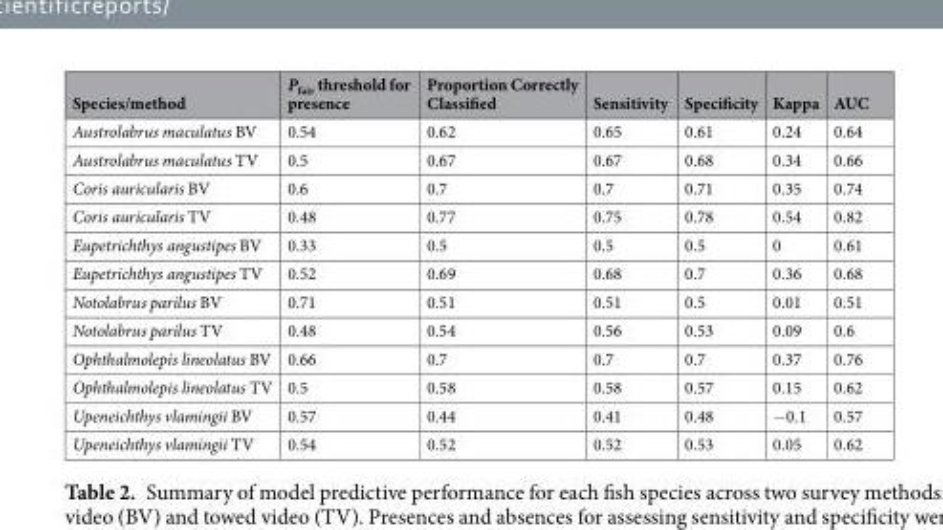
<table><thead><tr><td>Species/method</td><td>P<sub>fair</sub> threshold for presence</td><td>Proportion Correctly Classified</td><td>Sensitivity</td><td>Specificity</td><td>Kappa</td><td>AUC</td></tr></thead><tbody><tr><td>Austrolabrus maculatus BV</td><td>0.54</td><td>0.62</td><td>0.65</td><td>0.61</td><td>0.24</td><td>0.64</td></tr><tr><td>Austrolabrus maculatus TV</td><td>0.5</td><td>0.67</td><td>0.67</td><td>0.68</td><td>0.34</td><td>0.66</td></tr><tr><td>Coris auricularis BV</td><td>0.6</td><td>0.7</td><td>0.7</td><td>0.71</td><td>0.35</td><td>0.74</td></tr><tr><td>Coris auricularis TV</td><td>0.48</td><td>0.77</td><td>0.75</td><td>0.78</td><td>0.54</td><td>0.82</td></tr><tr><td>Eupetrichthys angustipes BV</td><td>0.33</td><td>0.5</td><td>0.5</td><td>0.5</td><td>0</td><td>0.61</td></tr><tr><td>Eupetrichthys angustipes TV</td><td>0.52</td><td>0.69</td><td>0.68</td><td>0.7</td><td>0.36</td><td>0.68</td></tr><tr><td>Notolabrus parilus BV</td><td>0.71</td><td>0.51</td><td>0.51</td><td>0.5</td><td>0.01</td><td>0.51</td></tr><tr><td>Notolabrus parilus TV</td><td>0.48</td><td>0.54</td><td>0.56</td><td>0.53</td><td>0.09</td><td>0.6</td></tr><tr><td>Ophthalmolepis lineolatus BV</td><td>0.66</td><td>0.7</td><td>0.7</td><td>0.7</td><td>0.37</td><td>0.76</td></tr><tr><td>Ophthalmolepis lineolatus TV</td><td>0.5</td><td>0.58</td><td>0.58</td><td>0.57</td><td>0.15</td><td>0.62</td></tr><tr><td>Upeneichthys vlamingii BV</td><td>0.57</td><td>0.44</td><td>0.41</td><td>0.48</td><td>−0.1</td><td>0.57</td></tr><tr><td>Upeneichthys vlamingii TV</td><td>0.54</td><td>0.52</td><td>0.52</td><td>0.53</td><td>0.05</td><td>0.62</td></tr></tbody></table>